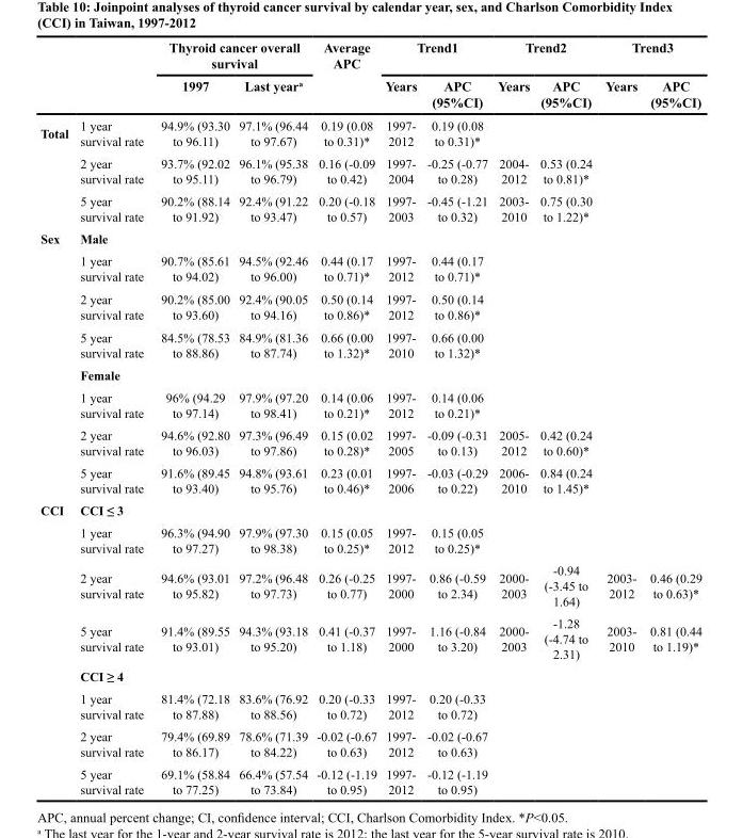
<table><thead><tr><td rowspan="2"></td><td rowspan="2"></td><td colspan="2">Thyroid cancer overall survival</td><td rowspan="2">Average APC</td><td colspan="2">Trend1</td><td colspan="2">Trend2</td><td colspan="2">Trend3</td></tr><tr><td>1997</td><td>Last year<sup>a</sup></td><td>Years</td><td>APC (95%CI)</td><td>Years</td><td>APC (95%CI)</td><td>Years</td><td>APC (95%CI)</td></tr></thead><tbody><tr><td rowspan="3">Total</td><td>1 year survival rate</td><td>94.9% (93.30 to 96.11)</td><td>97.1% (96.44 to 97.67)</td><td>0.19 (0.08 to 0.31)*</td><td>1997- 2012</td><td>0.19 (0.08 to 0.31)*</td><td></td><td></td><td></td><td></td></tr><tr><td>2 year survival rate</td><td>93.7% (92.02 to 95.11)</td><td>96.1% (95.38 to 96.79)</td><td>0.16 (-0.09 to 0.42)</td><td>1997- 2004</td><td>-0.25 (-0.77 to 0.28)</td><td>2004- 2012</td><td>0.53 (0.24 to 0.81)*</td><td></td><td></td></tr><tr><td>5 year survival rate</td><td>90.2% (88.14 to 91.92)</td><td>92.4% (91.22 to 93.47)</td><td>0.20 (-0.18 to 0.57)</td><td>1997- 2003</td><td>-0.45 (-1.21 to 0.32)</td><td>2003- 2010</td><td>0.75 (0.30 to 1.22)*</td><td></td><td></td></tr><tr><td rowspan="8">Sex</td><td colspan="10">Male</td></tr><tr><td>1 year survival rate</td><td>90.7% (85.61 to 94.02)</td><td>94.5% (92.46 to 96.00)</td><td>0.44 (0.17 to 0.71)*</td><td>1997- 2012</td><td>0.44 (0.17 to 0.71)*</td><td></td><td></td><td></td><td></td></tr><tr><td>2 year survival rate</td><td>90.2% (85.00 to 93.60)</td><td>92.4% (90.05 to 94.16)</td><td>0.50 (0.14 to 0.86)*</td><td>1997- 2012</td><td>0.50 (0.14 to 0.86)*</td><td></td><td></td><td></td><td></td></tr><tr><td>5 year survival rate</td><td>84.5% (78.53 to 88.86)</td><td>84.9% (81.36 to 87.74)</td><td>0.66 (0.00 to 1.32)*</td><td>1997- 2010</td><td>0.66 (0.00 to 1.32)*</td><td></td><td></td><td></td><td></td></tr><tr><td colspan="10">Female</td></tr><tr><td>1 year survival rate</td><td>96% (94.29 to 97.14)</td><td>97.9% (97.20 to 98.41)</td><td>0.14 (0.06 to 0.21)*</td><td>1997- 2012</td><td>0.14 (0.06 to 0.21)*</td><td></td><td></td><td></td><td></td></tr><tr><td>2 year survival rate</td><td>94.6% (92.80 to 96.03)</td><td>97.3% (96.49 to 97.86)</td><td>0.15 (0.02 to 0.28)*</td><td>1997- 2005</td><td>-0.09 (-0.31 to 0.13)</td><td>2005- 2012</td><td>0.42 (0.24 to 0.60)*</td><td></td><td></td></tr><tr><td>5 year survival rate</td><td>91.6% (89.45 to 93.40)</td><td>94.8% (93.61 to 95.76)</td><td>0.23 (0.01 to 0.46)*</td><td>1997- 2006</td><td>-0.03 (-0.29 to 0.22)</td><td>2006- 2010</td><td>0.84 (0.24 to 1.45)*</td><td></td><td></td></tr><tr><td rowspan="8">CCI</td><td colspan="10">CCI ≤ 3</td></tr><tr><td>1 year survival rate</td><td>96.3% (94.90 to 97.27)</td><td>97.9% (97.30 to 98.38)</td><td>0.15 (0.05 to 0.25)*</td><td>1997- 2012</td><td>0.15 (0.05 to 0.25)*</td><td></td><td></td><td></td><td></td></tr><tr><td>2 year survival rate</td><td>94.6% (93.01 to 95.82)</td><td>97.2% (96.48 to 97.73)</td><td>0.26 (-0.25 to 0.77)</td><td>1997- 2000</td><td>0.86 (-0.59 to 2.34)</td><td>2000- 2003</td><td>-0.94 (-3.45 to 1.64)</td><td>2003- 2012</td><td>0.46 (0.29 to 0.63)*</td></tr><tr><td>5 year survival rate</td><td>91.4% (89.55 to 93.01)</td><td>94.3% (93.18 to 95.20)</td><td>0.41 (-0.37 to 1.18)</td><td>1997- 2000</td><td>1.16 (-0.84 to 3.20)</td><td>2000- 2003</td><td>-1.28 (-4.74 to 2.31)</td><td>2003- 2010</td><td>0.81 (0.44 to 1.19)*</td></tr><tr><td colspan="10">CCI ≥ 4</td></tr><tr><td>1 year survival rate</td><td>81.4% (72.18 to 87.88)</td><td>83.6% (76.92 to 88.56)</td><td>0.20 (-0.33 to 0.72)</td><td>1997- 2012</td><td>0.20 (-0.33 to 0.72)</td><td></td><td></td><td></td><td></td></tr><tr><td>2 year survival rate</td><td>79.4% (69.89 to 86.17)</td><td>78.6% (71.39 to 84.22)</td><td>-0.02 (-0.67 to 0.63)</td><td>1997- 2012</td><td>-0.02 (-0.67 to 0.63)</td><td></td><td></td><td></td><td></td></tr><tr><td>5 year survival rate</td><td>69.1% (58.84 to 77.25)</td><td>66.4% (57.54 to 73.84)</td><td>-0.12 (-1.19 to 0.95)</td><td>1997- 2012</td><td>-0.12 (-1.19 to 0.95)</td><td></td><td></td><td></td><td></td></tr></tbody></table>